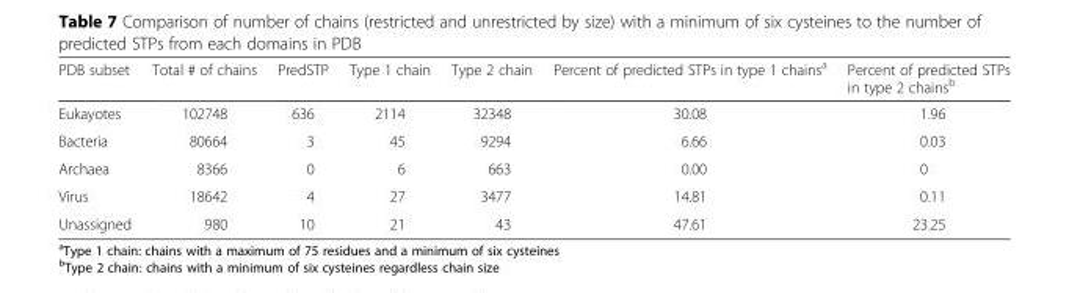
<table><thead><tr><td>PDB subset</td><td>Total # of chains</td><td>PredSTP</td><td>Type 1 chain</td><td>Type 2 chain</td><td>Percent of predicted STPs in type 1 chains<sup>a</sup></td><td>Percent of predicted STPs in type 2 chains<sup>b</sup></td></tr></thead><tbody><tr><td>Eukayotes</td><td>102748</td><td>636</td><td>2114</td><td>32348</td><td>30.08</td><td>1.96</td></tr><tr><td>Bacteria</td><td>80664</td><td>3</td><td>45</td><td>9294</td><td>6.66</td><td>0.03</td></tr><tr><td>Archaea</td><td>8366</td><td>0</td><td>6</td><td>663</td><td>0.00</td><td>0</td></tr><tr><td>Virus</td><td>18642</td><td>4</td><td>27</td><td>3477</td><td>14.81</td><td>0.11</td></tr><tr><td>Unassigned</td><td>980</td><td>10</td><td>21</td><td>43</td><td>47.61</td><td>23.25</td></tr></tbody></table>